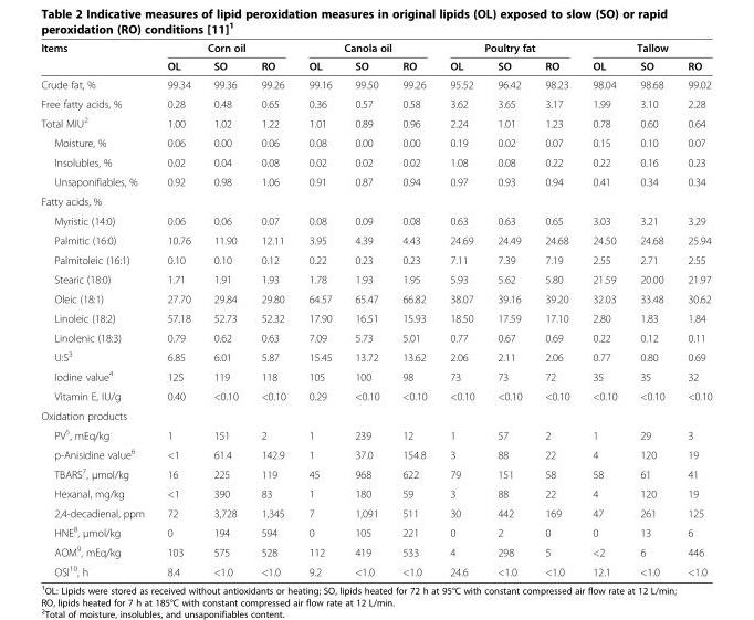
<table><thead><tr><td rowspan="2">Items</td><td colspan="3">Corn oil</td><td colspan="3">Canola oil</td><td colspan="3">Poultry fat</td><td colspan="3">Tallow</td></tr><tr><td>OL</td><td>SO</td><td>RO</td><td>OL</td><td>SO</td><td>RO</td><td>OL</td><td>SO</td><td>RO</td><td>OL</td><td>SO</td><td>RO</td></tr></thead><tbody><tr><td>Crude fat, %</td><td>99.34</td><td>99.36</td><td>99.26</td><td>99.16</td><td>99.50</td><td>99.26</td><td>95.52</td><td>96.42</td><td>98.23</td><td>98.04</td><td>98.68</td><td>99.02</td></tr><tr><td>Free fatty acids, %</td><td>0.28</td><td>0.48</td><td>0.65</td><td>0.36</td><td>0.57</td><td>0.58</td><td>3.62</td><td>3.65</td><td>3.17</td><td>1.99</td><td>3.10</td><td>2.28</td></tr><tr><td>Total MIU<sup>2</sup></td><td>1.00</td><td>1.02</td><td>1.22</td><td>1.01</td><td>0.89</td><td>0.96</td><td>2.24</td><td>1.01</td><td>1.23</td><td>0.78</td><td>0.60</td><td>0.64</td></tr><tr><td>Moisture, %</td><td>0.06</td><td>0.00</td><td>0.06</td><td>0.08</td><td>0.00</td><td>0.00</td><td>0.19</td><td>0.02</td><td>0.07</td><td>0.15</td><td>0.10</td><td>0.07</td></tr><tr><td>Insolubles, %</td><td>0.02</td><td>0.04</td><td>0.08</td><td>0.02</td><td>0.02</td><td>0.02</td><td>1.08</td><td>0.08</td><td>0.22</td><td>0.22</td><td>0.16</td><td>0.23</td></tr><tr><td>Unsaponifiables, %</td><td>0.92</td><td>0.98</td><td>1.06</td><td>0.91</td><td>0.87</td><td>0.94</td><td>0.97</td><td>0.93</td><td>0.94</td><td>0.41</td><td>0.34</td><td>0.34</td></tr><tr><td colspan="13">Fatty acids, %</td></tr><tr><td>Myristic (14:0)</td><td>0.06</td><td>0.06</td><td>0.07</td><td>0.08</td><td>0.09</td><td>0.08</td><td>0.63</td><td>0.63</td><td>0.65</td><td>3.03</td><td>3.21</td><td>3.29</td></tr><tr><td>Palmitic (16:0)</td><td>10.76</td><td>11.90</td><td>12.11</td><td>3.95</td><td>4.39</td><td>4.43</td><td>24.69</td><td>24.49</td><td>24.68</td><td>24.50</td><td>24.68</td><td>25.94</td></tr><tr><td>Palmitoleic (16:1)</td><td>0.10</td><td>0.10</td><td>0.12</td><td>0.22</td><td>0.23</td><td>0.23</td><td>7.11</td><td>7.39</td><td>7.19</td><td>2.55</td><td>2.71</td><td>2.55</td></tr><tr><td>Stearic (18:0)</td><td>1.71</td><td>1.91</td><td>1.93</td><td>1.78</td><td>1.93</td><td>1.95</td><td>5.93</td><td>5.62</td><td>5.80</td><td>21.59</td><td>20.00</td><td>21.97</td></tr><tr><td>Oleic (18:1)</td><td>27.70</td><td>29.84</td><td>29.80</td><td>64.57</td><td>65.47</td><td>66.82</td><td>38.07</td><td>39.16</td><td>39.20</td><td>32.03</td><td>33.48</td><td>30.62</td></tr><tr><td>Linoleic (18:2)</td><td>57.18</td><td>52.73</td><td>52.32</td><td>17.90</td><td>16.51</td><td>15.93</td><td>18.50</td><td>17.59</td><td>17.10</td><td>2.80</td><td>1.83</td><td>1.84</td></tr><tr><td>Linolenic (18:3)</td><td>0.79</td><td>0.62</td><td>0.63</td><td>7.09</td><td>5.73</td><td>5.01</td><td>0.77</td><td>0.67</td><td>0.69</td><td>0.22</td><td>0.12</td><td>0.11</td></tr><tr><td>U:S<sup>3</sup></td><td>6.85</td><td>6.01</td><td>5.87</td><td>15.45</td><td>13.72</td><td>13.62</td><td>2.06</td><td>2.11</td><td>2.06</td><td>0.77</td><td>0.80</td><td>0.69</td></tr><tr><td>Iodine value<sup>4</sup></td><td>125</td><td>119</td><td>118</td><td>105</td><td>100</td><td>98</td><td>73</td><td>73</td><td>72</td><td>35</td><td>35</td><td>32</td></tr><tr><td>Vitamin E, IU/g</td><td>0.40</td><td>&lt;0.10</td><td>&lt;0.10</td><td>0.29</td><td>&lt;0.10</td><td>&lt;0.10</td><td>&lt;0.10</td><td>&lt;0.10</td><td>&lt;0.10</td><td>&lt;0.10</td><td>&lt;0.10</td><td>&lt;0.10</td></tr><tr><td colspan="13">Oxidation products</td></tr><tr><td>PV<sup>5</sup>, mEq/kg</td><td>1</td><td>151</td><td>2</td><td>1</td><td>239</td><td>12</td><td>1</td><td>57</td><td>2</td><td>1</td><td>29</td><td>3</td></tr><tr><td>p-Anisidine value<sup>6</sup></td><td>&lt;1</td><td>61.4</td><td>142.9</td><td>1</td><td>37.0</td><td>154.8</td><td>3</td><td>88</td><td>22</td><td>4</td><td>120</td><td>19</td></tr><tr><td>TBARS<sup>7</sup>, μmol/kg</td><td>16</td><td>225</td><td>119</td><td>45</td><td>968</td><td>622</td><td>79</td><td>151</td><td>58</td><td>58</td><td>61</td><td>41</td></tr><tr><td>Hexanal, mg/kg</td><td>&lt;1</td><td>390</td><td>83</td><td>1</td><td>180</td><td>59</td><td>3</td><td>88</td><td>22</td><td>4</td><td>120</td><td>19</td></tr><tr><td>2,4-decadienal, ppm</td><td>72</td><td>3,728</td><td>1,345</td><td>7</td><td>1,091</td><td>511</td><td>30</td><td>442</td><td>169</td><td>47</td><td>261</td><td>125</td></tr><tr><td>HNE<sup>8</sup>, μmol/kg</td><td>0</td><td>194</td><td>594</td><td>0</td><td>105</td><td>221</td><td>0</td><td>2</td><td>0</td><td>0</td><td>13</td><td>6</td></tr><tr><td>AOM<sup>9</sup>, mEq/kg</td><td>103</td><td>575</td><td>528</td><td>112</td><td>419</td><td>533</td><td>4</td><td>298</td><td>5</td><td>&lt;2</td><td>6</td><td>446</td></tr><tr><td>OSI<sup>10</sup>, h</td><td>8.4</td><td>&lt;1.0</td><td>&lt;1.0</td><td>9.2</td><td>&lt;1.0</td><td>&lt;1.0</td><td>24.6</td><td>&lt;1.0</td><td>&lt;1.0</td><td>12.1</td><td>&lt;1.0</td><td>&lt;1.0</td></tr></tbody></table>